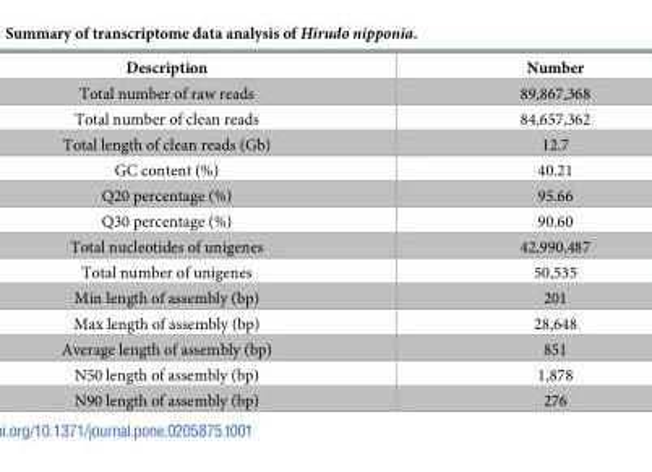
<table><thead><tr><td>Description</td><td>Number</td></tr></thead><tbody><tr><td>Total number of raw reads</td><td>89,867,368</td></tr><tr><td>Total number of clean reads</td><td>84,657,362</td></tr><tr><td>Total length of clean reads (Gb)</td><td>12.7</td></tr><tr><td>GC content (%)</td><td>40.21</td></tr><tr><td>Q20 percentage (%)</td><td>95.66</td></tr><tr><td>Q30 percentage (%)</td><td>90.60</td></tr><tr><td>Total nucleotides of unigenes</td><td>42,990,487</td></tr><tr><td>Total number of unigenes</td><td>50,535</td></tr><tr><td>Min length of assembly (bp)</td><td>201</td></tr><tr><td>Max length of assembly (bp)</td><td>28,648</td></tr><tr><td>Average length of assembly (bp)</td><td>851</td></tr><tr><td>N50 length of assembly (bp)</td><td>1,878</td></tr><tr><td>N90 length of assembly (bp)</td><td>276</td></tr></tbody></table>